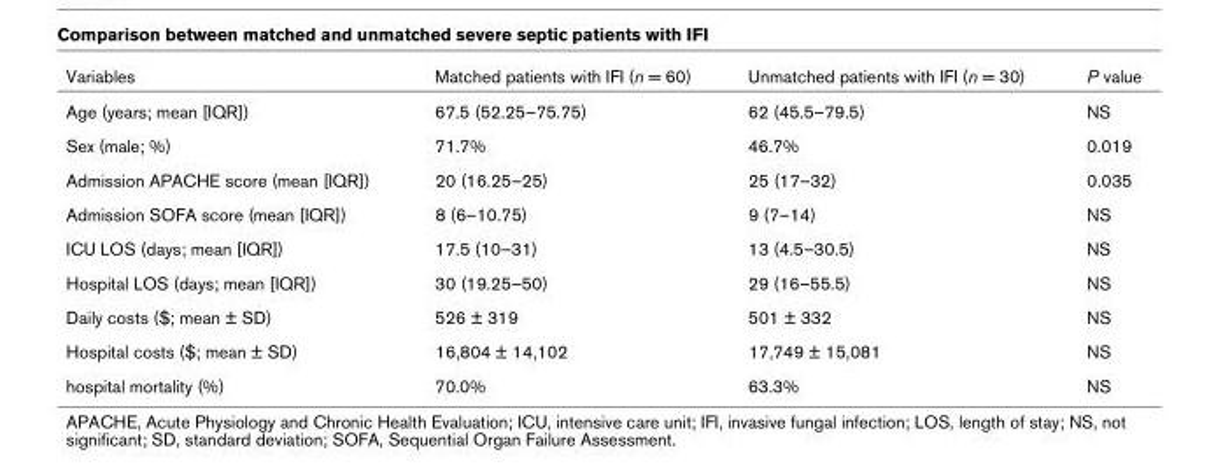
<table><thead><tr><td>Variables</td><td>Matched patients with IFI (n = 60)</td><td>Unmatched patients with IFI (n = 30)</td><td>P value</td></tr></thead><tbody><tr><td>Age (years; mean [IQR])</td><td>67.5 (52.25–75.75)</td><td>62 (45.5–79.5)</td><td>NS</td></tr><tr><td>Sex (male; %)</td><td>71.7%</td><td>46.7%</td><td>0.019</td></tr><tr><td>Admission APACHE score (mean [IQR])</td><td>20 (16.25–25)</td><td>25 (17–32)</td><td>0.035</td></tr><tr><td>Admission SOFA score (mean [IQR])</td><td>8 (6–10.75)</td><td>9 (7–14)</td><td>NS</td></tr><tr><td>ICU LOS (days; mean [IQR])</td><td>17.5 (10–31)</td><td>13 (4.5–30.5)</td><td>NS</td></tr><tr><td>Hospital LOS (days; mean [IQR])</td><td>30 (19.25–50)</td><td>29 (16–55.5)</td><td>NS</td></tr><tr><td>Daily costs ($; mean ± SD)</td><td>526 ± 319</td><td>501 ± 332</td><td>NS</td></tr><tr><td>Hospital costs ($; mean ± SD)</td><td>16,804 ± 14,102</td><td>17,749 ± 15,081</td><td>NS</td></tr><tr><td>hospital mortality (%)</td><td>70.0%</td><td>63.3%</td><td>NS</td></tr></tbody></table>